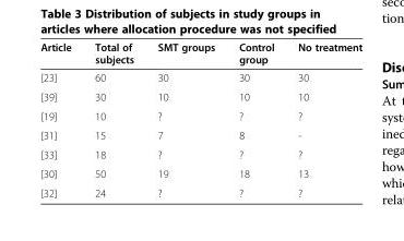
<table><thead><tr><td>Article</td><td>Total of subjects</td><td>SMT groups</td><td>Control group</td><td>No treatment</td></tr></thead><tbody><tr><td>[23]</td><td>60</td><td>30</td><td>30</td><td>30</td></tr><tr><td>[39]</td><td>30</td><td>10</td><td>10</td><td>10</td></tr><tr><td>[19]</td><td>10</td><td>?</td><td>?</td><td>?</td></tr><tr><td>[31]</td><td>15</td><td>7</td><td>8</td><td>-</td></tr><tr><td>[33]</td><td>18</td><td>?</td><td>?</td><td>?</td></tr><tr><td>[30]</td><td>50</td><td>19</td><td>18</td><td>13</td></tr><tr><td>[32]</td><td>24</td><td>?</td><td>?</td><td>?</td></tr></tbody></table>